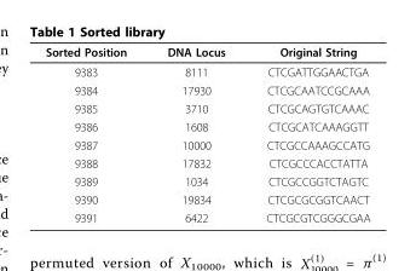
<table><thead><tr><td>Sorted Position</td><td>DNA Locus</td><td>Original String</td></tr></thead><tbody><tr><td>9383</td><td>8111</td><td>CTCGATTGGAACTGA</td></tr><tr><td>9384</td><td>17930</td><td>CTCGCAATCCGCAAA</td></tr><tr><td>9385</td><td>3710</td><td>CTCGCAGTGTCAAAC</td></tr><tr><td>9386</td><td>1608</td><td>CTCGCATCAAAGGTT</td></tr><tr><td>9387</td><td>10000</td><td>CTCGCCAAAGCCATG</td></tr><tr><td>9388</td><td>17832</td><td>CTCGCCCACCTATTA</td></tr><tr><td>9389</td><td>1034</td><td>CTCGCCGGTCTAGTC</td></tr><tr><td>9390</td><td>19834</td><td>CTCGCGCGGTCAACT</td></tr><tr><td>9391</td><td>6422</td><td>CTCGCGTCGGGCGAA</td></tr></tbody></table>